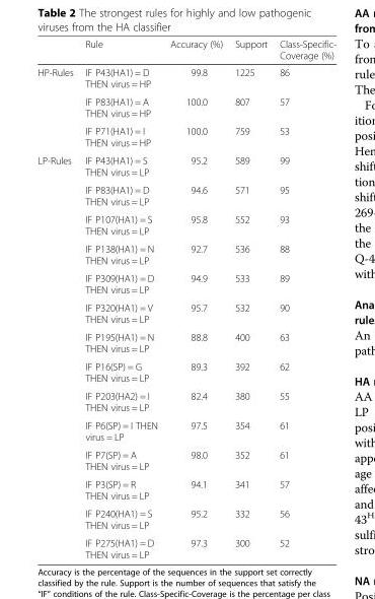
<table><thead><tr><td></td><td>Rule</td><td>Accuracy (%)</td><td>Support</td><td>Class-Specific- Coverage (%)</td></tr></thead><tbody><tr><td rowspan="3">HP-Rules</td><td>IF P43(HA1) = D THEN virus = HP</td><td>99.8</td><td>1225</td><td>86</td></tr><tr><td>IF P83(HA1) = A THEN virus = HP</td><td>100.0</td><td>807</td><td>57</td></tr><tr><td>IF P71(HA1) = I THEN virus = HP</td><td>100.0</td><td>759</td><td>53</td></tr><tr><td rowspan="14">LP-Rules</td><td>IF P43(HA1) = S THEN virus = LP</td><td>95.2</td><td>589</td><td>99</td></tr><tr><td>IF P83(HA1) = D THEN virus = LP</td><td>94.6</td><td>571</td><td>95</td></tr><tr><td>IF P107(HA1) = S THEN virus = LP</td><td>95.8</td><td>552</td><td>93</td></tr><tr><td>IF P138(HA1) = N THEN virus = LP</td><td>92.7</td><td>536</td><td>88</td></tr><tr><td>IF P309(HA1) = D THEN virus = LP</td><td>94.9</td><td>533</td><td>89</td></tr><tr><td>IF P320(HA1) = V THEN virus = LP</td><td>95.7</td><td>532</td><td>90</td></tr><tr><td>IF P195(HA1) = N THEN virus = LP</td><td>88.8</td><td>400</td><td>63</td></tr><tr><td>IF P16(SP) = G THEN virus = LP</td><td>89.3</td><td>392</td><td>62</td></tr><tr><td>IF P203(HA2) = I THEN virus = LP</td><td>82.4</td><td>380</td><td>55</td></tr><tr><td>IF P6(SP) = I THEN virus = LP</td><td>97.5</td><td>354</td><td>61</td></tr><tr><td>IF P7(SP) = A THEN virus = LP</td><td>98.0</td><td>352</td><td>61</td></tr><tr><td>IF P3(SP) = R THEN virus = LP</td><td>94.1</td><td>341</td><td>57</td></tr><tr><td>IF P240(HA1) = S THEN virus = LP</td><td>95.2</td><td>332</td><td>56</td></tr><tr><td>IF P275(HA1) = D THEN virus = LP</td><td>97.3</td><td>300</td><td>52</td></tr></tbody></table>